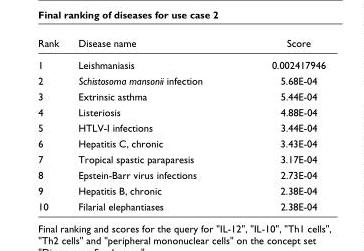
<table><thead><tr><td>Rank</td><td>Disease name</td><td>Score</td></tr></thead><tbody><tr><td>1</td><td>Leishmaniasis</td><td>0.002417946</td></tr><tr><td>2</td><td>Schistosoma mansonii infection</td><td>5.68E-04</td></tr><tr><td>3</td><td>Extrinsic asthma</td><td>5.44E-04</td></tr><tr><td>4</td><td>Listeriosis</td><td>4.88E-04</td></tr><tr><td>5</td><td>HTLV-I infections</td><td>3.44E-04</td></tr><tr><td>6</td><td>Hepatitis C, chronic</td><td>3.43E-04</td></tr><tr><td>7</td><td>Tropical spastic paraparesis</td><td>3.17E-04</td></tr><tr><td>8</td><td>Epstein-Barr virus infections</td><td>2.73E-04</td></tr><tr><td>9</td><td>Hepatitis B, chronic</td><td>2.38E-04</td></tr><tr><td>10</td><td>Filarial elephantiases</td><td>2.38E-04</td></tr></tbody></table>